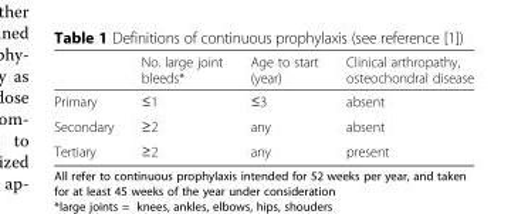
<table><thead><tr><td></td><td>No. large joint bleeds*</td><td>Age to start (year)</td><td>Clinical arthropathy, osteochondral disease</td></tr></thead><tbody><tr><td>Primary</td><td>≤1</td><td>≤3</td><td>absent</td></tr><tr><td>Secondary</td><td>≥2</td><td>any</td><td>absent</td></tr><tr><td>Tertiary</td><td>≥2</td><td>any</td><td>present</td></tr></tbody></table>